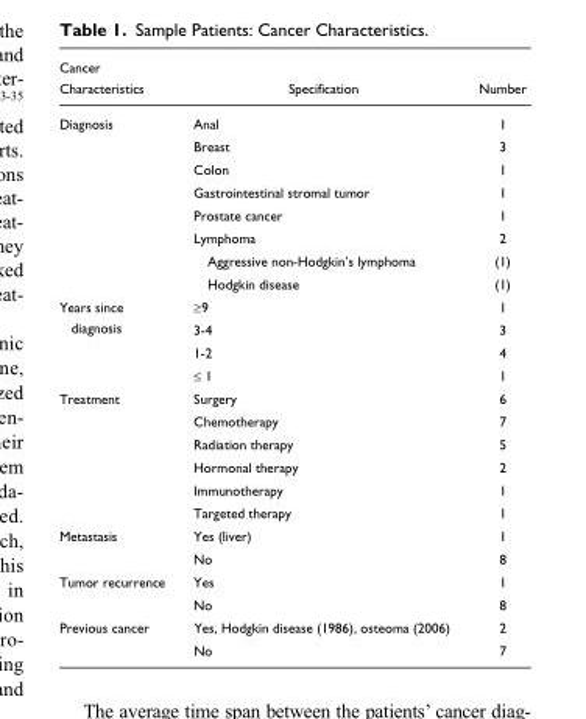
<table><thead><tr><td>Cancer Characteristics</td><td>Specification</td><td>Number</td></tr></thead><tbody><tr><td rowspan="8">Diagnosis</td><td>Anal</td><td>1</td></tr><tr><td>Breast</td><td>3</td></tr><tr><td>Colon</td><td>1</td></tr><tr><td>Gastrointestinal stromal tumor</td><td>1</td></tr><tr><td>Prostate cancer</td><td>1</td></tr><tr><td>Lymphoma</td><td>2</td></tr><tr><td>Aggressive non-Hodgkin’s lymphoma</td><td>(1)</td></tr><tr><td>Hodgkin disease</td><td>(1)</td></tr><tr><td rowspan="4">Years since diagnosis</td><td>≥9</td><td>1</td></tr><tr><td>3-4</td><td>3</td></tr><tr><td>1-2</td><td>4</td></tr><tr><td>≤ 1</td><td>1</td></tr><tr><td rowspan="6">Treatment</td><td>Surgery</td><td>6</td></tr><tr><td>Chemotherapy</td><td>7</td></tr><tr><td>Radiation therapy</td><td>5</td></tr><tr><td>Hormonal therapy</td><td>2</td></tr><tr><td>Immunotherapy</td><td>1</td></tr><tr><td>Targeted therapy</td><td>1</td></tr><tr><td rowspan="2">Metastasis</td><td>Yes (liver)</td><td>1</td></tr><tr><td>No</td><td>8</td></tr><tr><td rowspan="2">Tumor recurrence</td><td>Yes</td><td>1</td></tr><tr><td>No</td><td>8</td></tr><tr><td rowspan="2">Previous cancer</td><td>Yes, Hodgkin disease (1986), osteoma (2006)</td><td>2</td></tr><tr><td>No</td><td>7</td></tr></tbody></table>